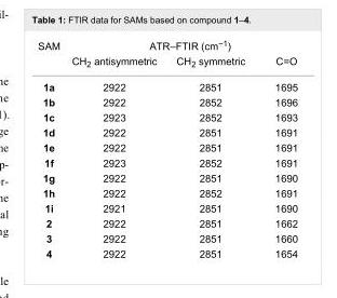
<table><tbody><tr><td rowspan="2">SAM</td><td colspan="3">ATR–FTIR (cm<sup>−1</sup>)</td></tr><tr><td>CH<sub>2</sub> antisymmetric</td><td>CH<sub>2</sub> symmetric</td><td>C=O</td></tr><tr><td>1a</td><td>2922</td><td>2851</td><td>1695</td></tr><tr><td>1b</td><td>2922</td><td>2852</td><td>1696</td></tr><tr><td>1c</td><td>2923</td><td>2852</td><td>1693</td></tr><tr><td>1d</td><td>2922</td><td>2851</td><td>1691</td></tr><tr><td>1e</td><td>2922</td><td>2851</td><td>1691</td></tr><tr><td>1f</td><td>2923</td><td>2852</td><td>1691</td></tr><tr><td>1g</td><td>2922</td><td>2851</td><td>1690</td></tr><tr><td>1h</td><td>2922</td><td>2852</td><td>1691</td></tr><tr><td>1i</td><td>2921</td><td>2851</td><td>1690</td></tr><tr><td>2</td><td>2922</td><td>2851</td><td>1662</td></tr><tr><td>3</td><td>2922</td><td>2851</td><td>1660</td></tr><tr><td>4</td><td>2922</td><td>2851</td><td>1654</td></tr></tbody></table>